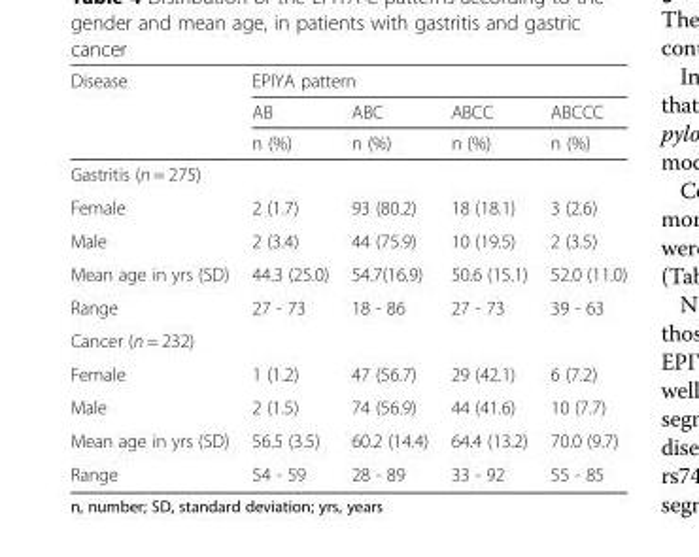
<table><thead><tr><td rowspan="3">Disease</td><td colspan="4">EPIYA pattern</td></tr><tr><td rowspan="2">AB n (%)</td><td rowspan="2">ABC n (%)</td><td rowspan="2">ABCC n (%)</td><td rowspan="2">ABCCC n (%)</td></tr><tr></tr></thead><tbody><tr><td colspan="5">Gastritis (n = 275)</td></tr><tr><td>Female</td><td>2 (1.7)</td><td>93 (80.2)</td><td>18 (18.1)</td><td>3 (2.6)</td></tr><tr><td>Male</td><td>2 (3.4)</td><td>44 (75.9)</td><td>10 (19.5)</td><td>2 (3.5)</td></tr><tr><td>Mean age in yrs (SD)</td><td>44.3 (25.0)</td><td>54.7(16.9)</td><td>50.6 (15.1)</td><td>52.0 (11.0)</td></tr><tr><td>Range</td><td>27 - 73</td><td>18 - 86</td><td>27 - 73</td><td>39 - 63</td></tr><tr><td colspan="5">Cancer (n = 232)</td></tr><tr><td>Female</td><td>1 (1.2)</td><td>47 (56.7)</td><td>29 (42.1)</td><td>6 (7.2)</td></tr><tr><td>Male</td><td>2 (1.5)</td><td>74 (56.9)</td><td>44 (41.6)</td><td>10 (7.7)</td></tr><tr><td>Mean age in yrs (SD)</td><td>56.5 (3.5)</td><td>60.2 (14.4)</td><td>64.4 (13.2)</td><td>70.0 (9.7)</td></tr><tr><td>Range</td><td>54 - 59</td><td>28 - 89</td><td>33 - 92</td><td>55 - 85</td></tr></tbody></table>